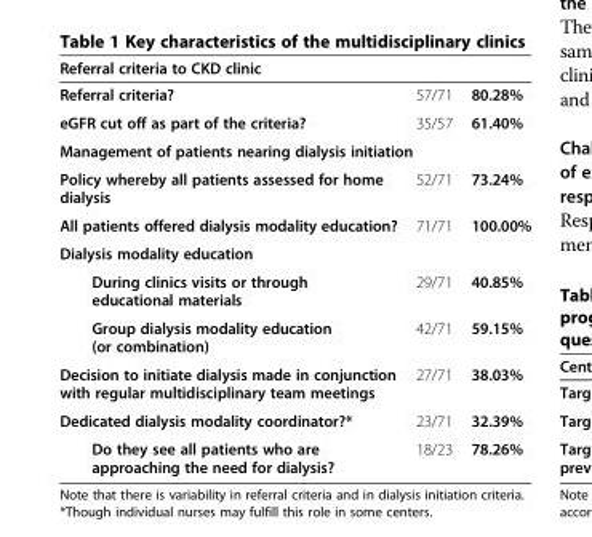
<table><thead><tr><td colspan="3">Referral criteria to CKD clinic</td></tr><tr><td>Referral criteria?</td><td>57/71</td><td>80.28%</td></tr></thead><tbody><tr><td>eGFR cut off as part of the criteria?</td><td>35/57</td><td>61.40%</td></tr><tr><td colspan="3">Management of patients nearing dialysis initiation</td></tr><tr><td>Policy whereby all patients assessed for home dialysis</td><td>52/71</td><td>73.24%</td></tr><tr><td>All patients offered dialysis modality education?</td><td>71/71</td><td>100.00%</td></tr><tr><td colspan="3">Dialysis modality education</td></tr><tr><td>During clinics visits or through educational materials</td><td>29/71</td><td>40.85%</td></tr><tr><td>Group dialysis modality education (or combination)</td><td>42/71</td><td>59.15%</td></tr><tr><td>Decision to initiate dialysis made in conjunction with regular multidisciplinary team meetings</td><td>27/71</td><td>38.03%</td></tr><tr><td>Dedicated dialysis modality coordinator?*</td><td>23/71</td><td>32.39%</td></tr><tr><td>Do they see all patients who are approaching the need for dialysis?</td><td>18/23</td><td>78.26%</td></tr></tbody></table>